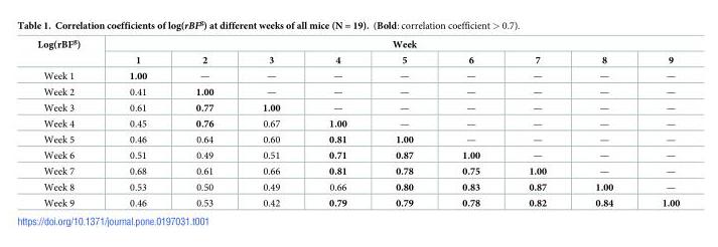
<table><thead><tr><td rowspan="2">Log(rBF<sup>g</sup>)</td><td colspan="9">Week</td></tr><tr><td>1</td><td>2</td><td>3</td><td>4</td><td>5</td><td>6</td><td>7</td><td>8</td><td>9</td></tr></thead><tbody><tr><td>Week 1</td><td>1.00</td><td>—</td><td>—</td><td>—</td><td>—</td><td>—</td><td>—</td><td>—</td><td>—</td></tr><tr><td>Week 2</td><td>0.41</td><td>1.00</td><td>—</td><td>—</td><td>—</td><td>—</td><td>—</td><td>—</td><td>—</td></tr><tr><td>Week 3</td><td>0.61</td><td>0.77</td><td>1.00</td><td>—</td><td>—</td><td>—</td><td>—</td><td>—</td><td>—</td></tr><tr><td>Week 4</td><td>0.45</td><td>0.76</td><td>0.67</td><td>1.00</td><td>—</td><td>—</td><td>—</td><td>—</td><td>—</td></tr><tr><td>Week 5</td><td>0.46</td><td>0.64</td><td>0.60</td><td>0.81</td><td>1.00</td><td>—</td><td>—</td><td>—</td><td>—</td></tr><tr><td>Week 6</td><td>0.51</td><td>0.49</td><td>0.51</td><td>0.71</td><td>0.87</td><td>1.00</td><td>—</td><td>—</td><td>—</td></tr><tr><td>Week 7</td><td>0.68</td><td>0.61</td><td>0.66</td><td>0.81</td><td>0.78</td><td>0.75</td><td>1.00</td><td>—</td><td>—</td></tr><tr><td>Week 8</td><td>0.53</td><td>0.50</td><td>0.49</td><td>0.66</td><td>0.80</td><td>0.83</td><td>0.87</td><td>1.00</td><td>—</td></tr><tr><td>Week 9</td><td>0.46</td><td>0.53</td><td>0.42</td><td>0.79</td><td>0.79</td><td>0.78</td><td>0.82</td><td>0.84</td><td>1.00</td></tr></tbody></table>